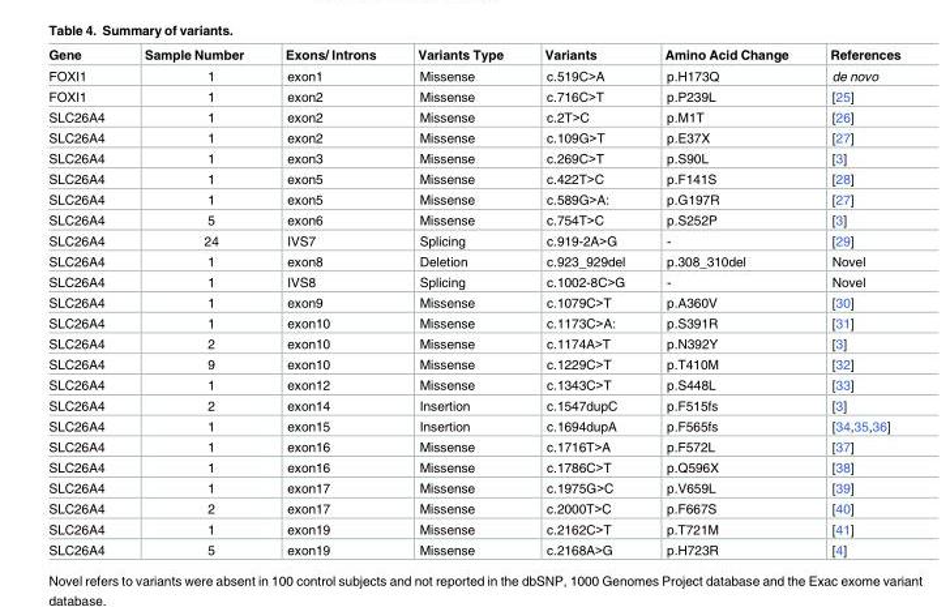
<table><thead><tr><td>Gene</td><td>Sample Number</td><td>Exons/ Introns</td><td>Variants Type</td><td>Variants</td><td>Amino Acid Change</td><td>References</td></tr></thead><tbody><tr><td>FOXI1</td><td>1</td><td>exon1</td><td>Missense</td><td>c.519C&gt;A</td><td>p.H173Q</td><td>de novo</td></tr><tr><td>FOXI1</td><td>1</td><td>exon2</td><td>Missense</td><td>c.716C&gt;T</td><td>p.P239L</td><td>[25]</td></tr><tr><td>SLC26A4</td><td>1</td><td>exon2</td><td>Missense</td><td>c.2T&gt;C</td><td>p.M1T</td><td>[26]</td></tr><tr><td>SLC26A4</td><td>1</td><td>exon2</td><td>Missense</td><td>c.109G&gt;T</td><td>p.E37X</td><td>[27]</td></tr><tr><td>SLC26A4</td><td>1</td><td>exon3</td><td>Missense</td><td>c.269C&gt;T</td><td>p.S90L</td><td>[3]</td></tr><tr><td>SLC26A4</td><td>1</td><td>exon5</td><td>Missense</td><td>c.422T&gt;C</td><td>p.F141S</td><td>[28]</td></tr><tr><td>SLC26A4</td><td>1</td><td>exon5</td><td>Missense</td><td>c.589G&gt;A:</td><td>p.G197R</td><td>[27]</td></tr><tr><td>SLC26A4</td><td>5</td><td>exon6</td><td>Missense</td><td>c.754T&gt;C</td><td>p.S252P</td><td>[3]</td></tr><tr><td>SLC26A4</td><td>24</td><td>IVS7</td><td>Splicing</td><td>c.919-2A&gt;G</td><td>-</td><td>[29]</td></tr><tr><td>SLC26A4</td><td>1</td><td>exon8</td><td>Deletion</td><td>c.923_929del</td><td>p.308_310del</td><td>Novel</td></tr><tr><td>SLC26A4</td><td>1</td><td>IVS8</td><td>Splicing</td><td>c.1002-8C&gt;G</td><td>-</td><td>Novel</td></tr><tr><td>SLC26A4</td><td>1</td><td>exon9</td><td>Missense</td><td>c.1079C&gt;T</td><td>p.A360V</td><td>[30]</td></tr><tr><td>SLC26A4</td><td>1</td><td>exon10</td><td>Missense</td><td>c.1173C&gt;A:</td><td>p.S391R</td><td>[31]</td></tr><tr><td>SLC26A4</td><td>2</td><td>exon10</td><td>Missense</td><td>c.1174A&gt;T</td><td>p.N392Y</td><td>[3]</td></tr><tr><td>SLC26A4</td><td>9</td><td>exon10</td><td>Missense</td><td>c.1229C&gt;T</td><td>p.T410M</td><td>[32]</td></tr><tr><td>SLC26A4</td><td>1</td><td>exon12</td><td>Missense</td><td>c.1343C&gt;T</td><td>p.S448L</td><td>[33]</td></tr><tr><td>SLC26A4</td><td>2</td><td>exon14</td><td>Insertion</td><td>c.1547dupC</td><td>p.F515fs</td><td>[3]</td></tr><tr><td>SLC26A4</td><td>1</td><td>exon15</td><td>Insertion</td><td>c.1694dupA</td><td>p.F565fs</td><td>[34,35,36]</td></tr><tr><td>SLC26A4</td><td>1</td><td>exon16</td><td>Missense</td><td>c.1716T&gt;A</td><td>p.F572L</td><td>[37]</td></tr><tr><td>SLC26A4</td><td>1</td><td>exon16</td><td>Missense</td><td>c.1786C&gt;T</td><td>p.Q596X</td><td>[38]</td></tr><tr><td>SLC26A4</td><td>1</td><td>exon17</td><td>Missense</td><td>c.1975G&gt;C</td><td>p.V659L</td><td>[39]</td></tr><tr><td>SLC26A4</td><td>2</td><td>exon17</td><td>Missense</td><td>c.2000T&gt;C</td><td>p.F667S</td><td>[40]</td></tr><tr><td>SLC26A4</td><td>1</td><td>exon19</td><td>Missense</td><td>c.2162C&gt;T</td><td>p.T721M</td><td>[41]</td></tr><tr><td>SLC26A4</td><td>5</td><td>exon19</td><td>Missense</td><td>c.2168A&gt;G</td><td>p.H723R</td><td>[4]</td></tr></tbody></table>